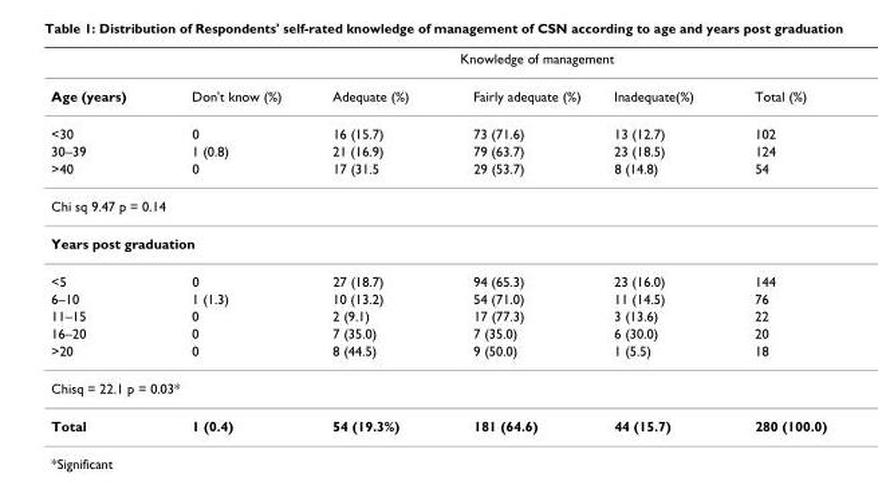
<table><thead><tr><td rowspan="2">Age (years)</td><td colspan="5">Knowledge of management</td></tr><tr><td>Don&#x27;t know (%)</td><td>Adequate (%)</td><td>Fairly adequate (%)</td><td>Inadequate(%)</td><td>Total (%)</td></tr></thead><tbody><tr><td>&lt;30</td><td>0</td><td>16 (15.7)</td><td>73 (71.6)</td><td>13 (12.7)</td><td>102</td></tr><tr><td>30–39</td><td>1 (0.8)</td><td>21 (16.9)</td><td>79 (63.7)</td><td>23 (18.5)</td><td>124</td></tr><tr><td>&gt;40</td><td>0</td><td>17 (31.5</td><td>29 (53.7)</td><td>8 (14.8)</td><td>54</td></tr><tr><td colspan="6">Chi sq 9.47 p = 0.14</td></tr><tr><td colspan="6">Years post graduation</td></tr><tr><td>&lt;5</td><td>0</td><td>27 (18.7)</td><td>94 (65.3)</td><td>23 (16.0)</td><td>144</td></tr><tr><td>6–10</td><td>1 (1.3)</td><td>10 (13.2)</td><td>54 (71.0)</td><td>11 (14.5)</td><td>76</td></tr><tr><td>11–15</td><td>0</td><td>2 (9.1)</td><td>17 (77.3)</td><td>3 (13.6)</td><td>22</td></tr><tr><td>16–20</td><td>0</td><td>7 (35.0)</td><td>7 (35.0)</td><td>6 (30.0)</td><td>20</td></tr><tr><td>&gt;20</td><td>0</td><td>8 (44.5)</td><td>9 (50.0)</td><td>1 (5.5)</td><td>18</td></tr><tr><td colspan="6">Chisq = 22.1 p = 0.03*</td></tr><tr><td>Total</td><td>1 (0.4)</td><td>54 (19.3%)</td><td>181 (64.6)</td><td>44 (15.7)</td><td>280 (100.0)</td></tr></tbody></table>